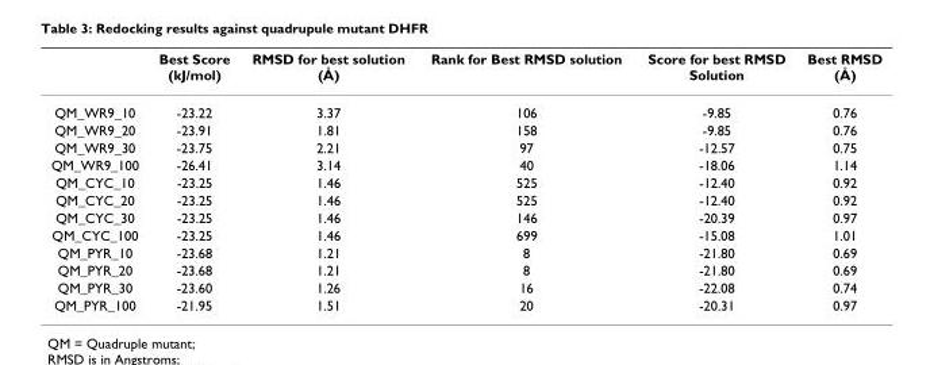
<table><thead><tr><td></td><td>Best Score (kJ/mol)</td><td>RMSD for best solution (Å)</td><td>Rank for Best RMSD solution</td><td>Score for best RMSD Solution</td><td>Best RMSD (Å)</td></tr></thead><tbody><tr><td>QM_WR9_10</td><td>-23.22</td><td>3.37</td><td>106</td><td>-9.85</td><td>0.76</td></tr><tr><td>QM_WR9_20</td><td>-23.91</td><td>1.81</td><td>158</td><td>-9.85</td><td>0.76</td></tr><tr><td>QM_WR9_30</td><td>-23.75</td><td>2.21</td><td>97</td><td>-12.57</td><td>0.75</td></tr><tr><td>QM_WR9_100</td><td>-26.41</td><td>3.14</td><td>40</td><td>-18.06</td><td>1.14</td></tr><tr><td>QM_CYC_10</td><td>-23.25</td><td>1.46</td><td>525</td><td>-12.40</td><td>0.92</td></tr><tr><td>QM_CYC_20</td><td>-23.25</td><td>1.46</td><td>525</td><td>-12.40</td><td>0.92</td></tr><tr><td>QM_CYC_30</td><td>-23.25</td><td>1.46</td><td>146</td><td>-20.39</td><td>0.97</td></tr><tr><td>QM_CYC_100</td><td>-23.25</td><td>1.46</td><td>699</td><td>-15.08</td><td>1.01</td></tr><tr><td>QM_PYR_10</td><td>-23.68</td><td>1.21</td><td>8</td><td>-21.80</td><td>0.69</td></tr><tr><td>QM_PYR_20</td><td>-23.68</td><td>1.21</td><td>8</td><td>-21.80</td><td>0.69</td></tr><tr><td>QM_PYR_30</td><td>-23.60</td><td>1.26</td><td>16</td><td>-22.08</td><td>0.74</td></tr><tr><td>QM_PYR_100</td><td>-21.95</td><td>1.51</td><td>20</td><td>-20.31</td><td>0.97</td></tr></tbody></table>